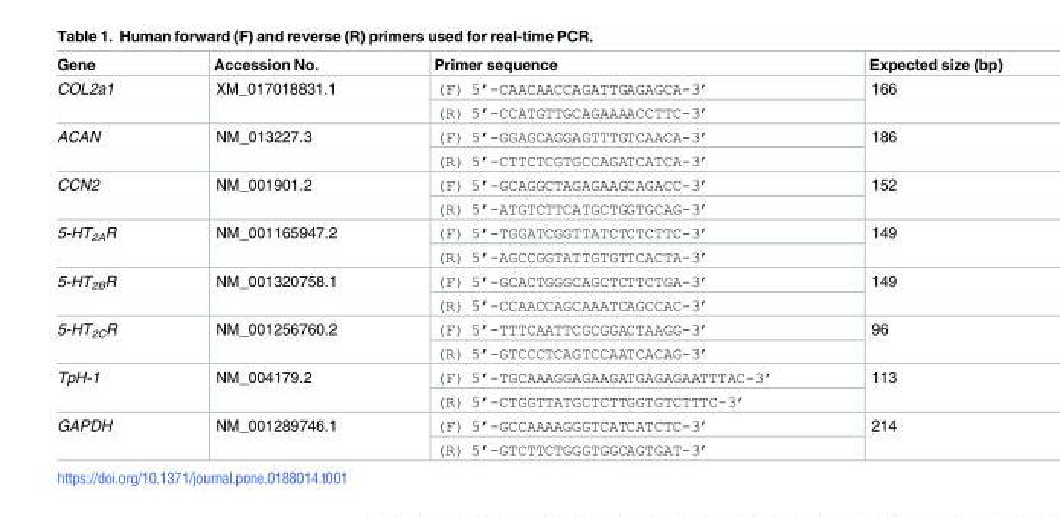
<table><thead><tr><td>Gene</td><td>Accession No.</td><td>Primer sequence</td><td>Expected size (bp)</td></tr></thead><tbody><tr><td rowspan="2">COL2a1</td><td rowspan="2">XM_017018831.1</td><td>(F) 5’-CAACAACCAGATTGAGAGCA-3’</td><td rowspan="2">166</td></tr><tr><td>(R) 5’-CCATGTTGCAGAAAACCTTC-3’</td></tr><tr><td rowspan="2">ACAN</td><td rowspan="2">NM_013227.3</td><td>(F) 5’-GGAGCAGGAGTTTGTCAACA-3’</td><td rowspan="2">186</td></tr><tr><td>(R) 5’-CTTCTCGTGCCAGATCATCA-3’</td></tr><tr><td rowspan="2">CCN2</td><td rowspan="2">NM_001901.2</td><td>(F) 5’-GCAGGCTAGAGAAGCAGACC-3’</td><td rowspan="2">152</td></tr><tr><td>(R) 5’-ATGTCTTCATGCTGGTGCAG-3’</td></tr><tr><td rowspan="2">5-HT<sub>2A</sub>R</td><td rowspan="2">NM_001165947.2</td><td>(F) 5’-TGGATCGGTTATCTCTCTTC-3’</td><td rowspan="2">149</td></tr><tr><td>(R) 5’-AGCCGGTATTGTGTTCACTA-3’</td></tr><tr><td rowspan="2">5-HT<sub>2B</sub>R</td><td rowspan="2">NM_001320758.1</td><td>(F) 5’-GCACTGGGCAGCTCTTCTGA-3’</td><td rowspan="2">149</td></tr><tr><td>(R) 5’-CCAACCAGCAAATCAGCCAC-3’</td></tr><tr><td rowspan="2">5-HT<sub>2C</sub>R</td><td rowspan="2">NM_001256760.2</td><td>(F) 5’-TTTCAATTCGCGGACTAAGG-3’</td><td rowspan="2">96</td></tr><tr><td>(R) 5’-GTCCCTCAGTCCAATCACAG-3’</td></tr><tr><td rowspan="2">TpH-1</td><td rowspan="2">NM_004179.2</td><td>(F) 5’-TGCAAAGGAGAAGATGAGAGAATTTAC-3’</td><td rowspan="2">113</td></tr><tr><td>(R) 5’-CTGGTTATGCTCTTGGTGTCTTTC-3’</td></tr><tr><td rowspan="2">GAPDH</td><td rowspan="2">NM_001289746.1</td><td>(F) 5’-GCCAAAAGGGTCATCATCTC-3’</td><td rowspan="2">214</td></tr><tr><td>(R) 5’-GTCTTCTGGGTGGCAGTGAT-3’</td></tr></tbody></table>